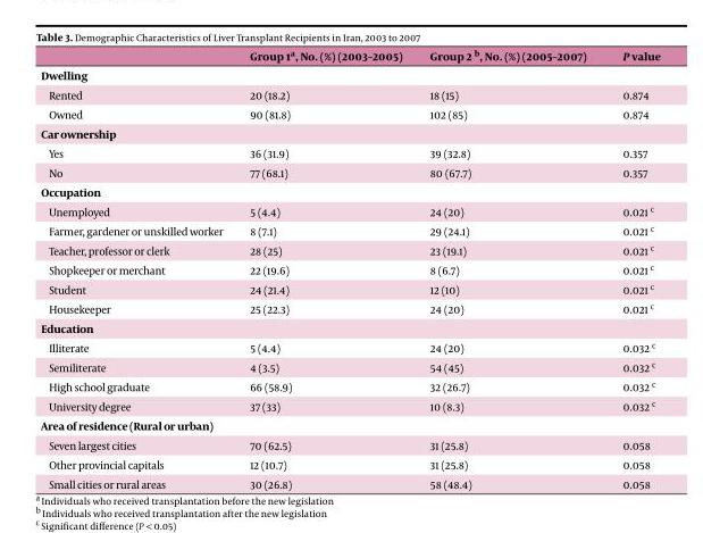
<table><thead><tr><td></td><td>Group 1<sup>a</sup>, No. (%) (2003–2005)</td><td>Group 2 b, No. (%) (2005–2007)</td><td>P value</td></tr></thead><tbody><tr><td colspan="4">Dwelling</td></tr><tr><td>Rented</td><td>20 (18.2)</td><td>18 (15)</td><td>0.874</td></tr><tr><td>Owned</td><td>90 (81.8)</td><td>102 (85)</td><td>0.874</td></tr><tr><td colspan="4">Car ownership</td></tr><tr><td>Yes</td><td>36 (31.9)</td><td>39 (32.8)</td><td>0.357</td></tr><tr><td>No</td><td>77 (68.1)</td><td>80 (67.7)</td><td>0.357</td></tr><tr><td colspan="4">Occupation</td></tr><tr><td>Unemployed</td><td>5 (4.4)</td><td>24 (20)</td><td>0.021 c</td></tr><tr><td>Farmer, gardener or unskilled worker</td><td>8 (7.1)</td><td>29 (24.1)</td><td>0.021 c</td></tr><tr><td>Teacher, professor or clerk</td><td>28 (25)</td><td>23 (19.1)</td><td>0.021 c</td></tr><tr><td>Shopkeeper or merchant</td><td>22 (19.6)</td><td>8 (6.7)</td><td>0.021 c</td></tr><tr><td>Student</td><td>24 (21.4)</td><td>12 (10)</td><td>0.021 c</td></tr><tr><td>Housekeeper</td><td>25 (22.3)</td><td>24 (20)</td><td>0.021 c</td></tr><tr><td colspan="4">Education</td></tr><tr><td>Illiterate</td><td>5 (4.4)</td><td>24 (20)</td><td>0.032 c</td></tr><tr><td>Semiliterate</td><td>4 (3.5)</td><td>54 (45)</td><td>0.032 c</td></tr><tr><td>High school graduate</td><td>66 (58.9)</td><td>32 (26.7)</td><td>0.032 c</td></tr><tr><td>University degree</td><td>37 (33)</td><td>10 (8.3)</td><td>0.032 c</td></tr><tr><td colspan="4">Area of residence (Rural or urban)</td></tr><tr><td>Seven largest cities</td><td>70 (62.5)</td><td>31 (25.8)</td><td>0.058</td></tr><tr><td>Other provincial capitals</td><td>12 (10.7)</td><td>31 (25.8)</td><td>0.058</td></tr><tr><td>Small cities or rural areas</td><td>30 (26.8)</td><td>58 (48.4)</td><td>0.058</td></tr></tbody></table>